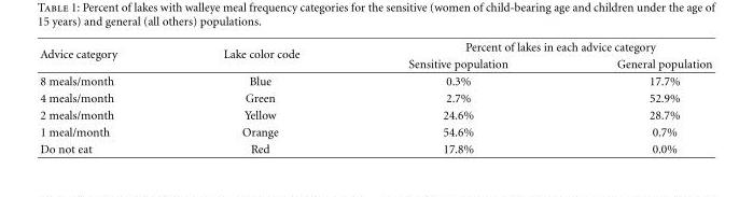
<table><thead><tr><td rowspan="2">Advice category</td><td rowspan="2">Lake color code</td><td colspan="2">Percent of lakes in each advice category</td></tr><tr><td>Sensitive population</td><td>General population</td></tr></thead><tbody><tr><td>8 meals/month</td><td>Blue</td><td>0.3%</td><td>17.7%</td></tr><tr><td>4 meals/month</td><td>Green</td><td>2.7%</td><td>52.9%</td></tr><tr><td>2 meals/month</td><td>Yellow</td><td>24.6%</td><td>28.7%</td></tr><tr><td>1 meal/month</td><td>Orange</td><td>54.6%</td><td>0.7%</td></tr><tr><td>Do not eat</td><td>Red</td><td>17.8%</td><td>0.0%</td></tr></tbody></table>